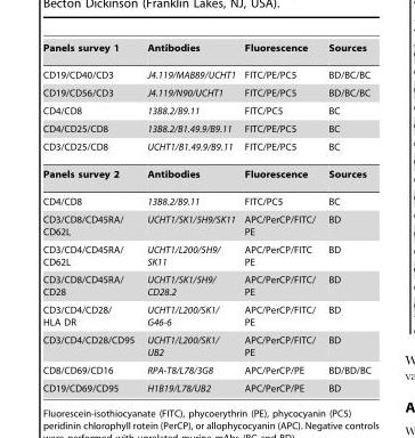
<table><tbody><tr><td>Panels survey 1</td><td>Antibodies</td><td>Fluorescence</td><td>Sources</td></tr><tr><td>CD19/CD40/CD3</td><td>J4.119/MAB89/UCHT1</td><td>FITC/PE/PC5</td><td>BD/BC/BC</td></tr><tr><td>CD19/CD56/CD3</td><td>J4.119/N90/UCHT1</td><td>FITC/PE/PC5</td><td>BD/BC/BC</td></tr><tr><td>CD4/CD8</td><td>13B8.2/B9.11</td><td>FITC/PC5</td><td>BC</td></tr><tr><td>CD4/CD25/CD8</td><td>13B8.2/B1.49.9/B9.11</td><td>FITC/PE/PC5</td><td>BC</td></tr><tr><td>CD3/CD25/CD8</td><td>UCHT1/B1.49.9/B9.11</td><td>FITC/PE/PC5</td><td>BC</td></tr><tr><td>Panels survey 2</td><td>Antibodies</td><td>Fluorescence</td><td>Sources</td></tr><tr><td>CD4/CD8</td><td>13B8.2/B9.11</td><td>FITC/PC5</td><td>BC</td></tr><tr><td>CD3/CD8/CD45RA/ CD62L</td><td>UCHT1/SK1/5H9/SK11</td><td>APC/PerCP/FITC/ PE</td><td>BD</td></tr><tr><td>CD3/CD4/CD45RA/ CD62L</td><td>UCHT1/L200/5H9/ SK11</td><td>APC/PerCP/FITC PE</td><td>BD</td></tr><tr><td>CD3/CD8/CD45RA/ CD28</td><td>UCHT1/SK1/5H9/ CD28.2</td><td>APC/PerCP/FITC/ PE</td><td>BD</td></tr><tr><td>CD3/CD4/CD28/ HLA DR</td><td>UCHT1/L200/SK1/ G46-6</td><td>APC/PerCP/FITC/ PE</td><td>BD</td></tr><tr><td>CD3/CD4/CD28/CD95</td><td>UCHT1/L200/SK1/ UB2</td><td>APC/PerCP/FITC/ PE</td><td>BD</td></tr><tr><td>CD8/CD69/CD16</td><td>RPA-T8/L78/3G8</td><td>APC/PerCP/PE</td><td>BD/BD/BC</td></tr><tr><td>CD19/CD69/CD95</td><td>H1B19/L78/UB2</td><td>APC/PerCP/PE</td><td>BD</td></tr></tbody></table>